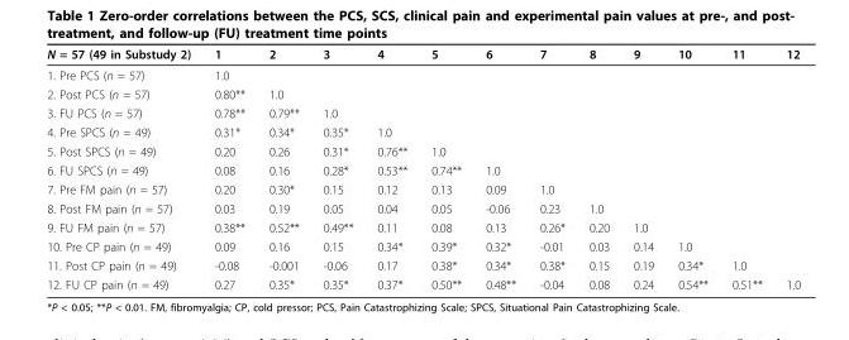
<table><thead><tr><td>N = 57 (49 in Substudy 2)</td><td>1</td><td>2</td><td>3</td><td>4</td><td>5</td><td>6</td><td>7</td><td>8</td><td>9</td><td>10</td><td>11</td><td>12</td></tr></thead><tbody><tr><td>1. Pre PCS (n = 57)</td><td>1.0</td><td></td><td></td><td></td><td></td><td></td><td></td><td></td><td></td><td></td><td></td><td></td></tr><tr><td>2. Post PCS (n = 57)</td><td>0.80**</td><td>1.0</td><td></td><td></td><td></td><td></td><td></td><td></td><td></td><td></td><td></td><td></td></tr><tr><td>3. FU PCS (n = 57)</td><td>0.78**</td><td>0.79**</td><td>1.0</td><td></td><td></td><td></td><td></td><td></td><td></td><td></td><td></td><td></td></tr><tr><td>4. Pre SPCS (n = 49)</td><td>0.31*</td><td>0.34*</td><td>0.35*</td><td>1.0</td><td></td><td></td><td></td><td></td><td></td><td></td><td></td><td></td></tr><tr><td>5. Post SPCS (n = 49)</td><td>0.20</td><td>0.26</td><td>0.31*</td><td>0.76**</td><td>1.0</td><td></td><td></td><td></td><td></td><td></td><td></td><td></td></tr><tr><td>6. FU SPCS (n = 49)</td><td>0.08</td><td>0.16</td><td>0.28*</td><td>0.53**</td><td>0.74**</td><td>1.0</td><td></td><td></td><td></td><td></td><td></td><td></td></tr><tr><td>7. Pre FM pain (n = 57)</td><td>0.20</td><td>0.30*</td><td>0.15</td><td>0.12</td><td>0.13</td><td>0.09</td><td>1.0</td><td></td><td></td><td></td><td></td><td></td></tr><tr><td>8. Post FM pain (n = 57)</td><td>0.03</td><td>0.19</td><td>0.05</td><td>0.04</td><td>0.05</td><td>-0.06</td><td>0.23</td><td>1.0</td><td></td><td></td><td></td><td></td></tr><tr><td>9. FU FM pain (n = 57)</td><td>0.38**</td><td>0.52**</td><td>0.49**</td><td>0.11</td><td>0.08</td><td>0.13</td><td>0.26*</td><td>0.20</td><td>1.0</td><td></td><td></td><td></td></tr><tr><td>10. Pre CP pain (n = 49)</td><td>0.09</td><td>0.16</td><td>0.15</td><td>0.34*</td><td>0.39*</td><td>0.32*</td><td>-0.01</td><td>0.03</td><td>0.14</td><td>1.0</td><td></td><td></td></tr><tr><td>11. Post CP pain (n = 49)</td><td>-0.08</td><td>-0.001</td><td>-0.06</td><td>0.17</td><td>0.38*</td><td>0.34*</td><td>0.38*</td><td>0.15</td><td>0.19</td><td>0.34*</td><td>1.0</td><td></td></tr><tr><td>12. FU CP pain (n = 49)</td><td>0.27</td><td>0.35*</td><td>0.35*</td><td>0.37*</td><td>0.50**</td><td>0.48**</td><td>-0.04</td><td>0.08</td><td>0.24</td><td>0.54**</td><td>0.51**</td><td>1.0</td></tr></tbody></table>